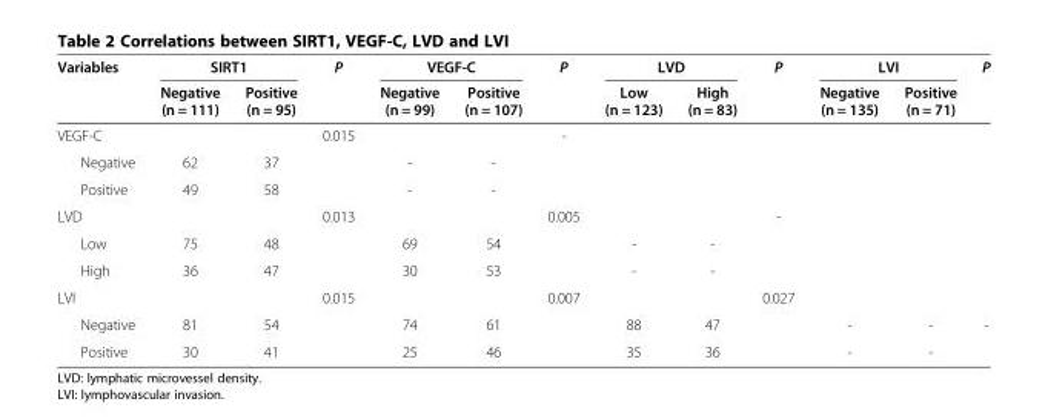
<table><thead><tr><td rowspan="2">Variables</td><td colspan="2">SIRT1</td><td rowspan="2">P</td><td colspan="2">VEGF-C</td><td rowspan="2">P</td><td colspan="2">LVD</td><td rowspan="2">P</td><td colspan="2">LVI</td><td rowspan="2">P</td></tr><tr><td>Negative (n = 111)</td><td>Positive (n = 95)</td><td>Negative (n = 99)</td><td>Positive (n = 107)</td><td>Low (n = 123)</td><td>High (n = 83)</td><td>Negative (n = 135)</td><td>Positive (n = 71)</td></tr></thead><tbody><tr><td>VEGF-C</td><td></td><td></td><td>0.015</td><td></td><td></td><td>-</td><td></td><td></td><td></td><td></td><td></td><td></td></tr><tr><td>Negative</td><td>62</td><td>37</td><td></td><td>-</td><td>-</td><td></td><td></td><td></td><td></td><td></td><td></td><td></td></tr><tr><td>Positive</td><td>49</td><td>58</td><td></td><td>-</td><td>-</td><td></td><td></td><td></td><td></td><td></td><td></td><td></td></tr><tr><td>LVD</td><td></td><td></td><td>0.013</td><td></td><td></td><td>0.005</td><td></td><td></td><td>-</td><td></td><td></td><td></td></tr><tr><td>Low</td><td>75</td><td>48</td><td></td><td>69</td><td>54</td><td></td><td>-</td><td>-</td><td></td><td></td><td></td><td></td></tr><tr><td>High</td><td>36</td><td>47</td><td></td><td>30</td><td>53</td><td></td><td>-</td><td>-</td><td></td><td></td><td></td><td></td></tr><tr><td>LVI</td><td></td><td></td><td>0.015</td><td></td><td></td><td>0.007</td><td></td><td></td><td>0.027</td><td></td><td></td><td></td></tr><tr><td>Negative</td><td>81</td><td>54</td><td></td><td>74</td><td>61</td><td></td><td>88</td><td>47</td><td></td><td>-</td><td>-</td><td>-</td></tr><tr><td>Positive</td><td>30</td><td>41</td><td></td><td>25</td><td>46</td><td></td><td>35</td><td>36</td><td></td><td>-</td><td>-</td><td></td></tr></tbody></table>